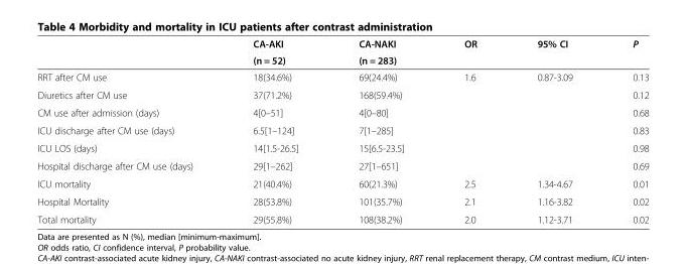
<table><thead><tr><td rowspan="2"></td><td rowspan="2">CA-AKI (n = 52)</td><td rowspan="2">CA-NAKI (n = 283)</td><td rowspan="2">OR</td><td rowspan="2">95% CI</td><td rowspan="2">P</td></tr><tr></tr></thead><tbody><tr><td>RRT after CM use</td><td>18(34.6%)</td><td>69(24.4%)</td><td>1.6</td><td>0.87-3.09</td><td>0.13</td></tr><tr><td>Diuretics after CM use</td><td>37(71.2%)</td><td>168(59.4%)</td><td></td><td></td><td>0.12</td></tr><tr><td>CM use after admission (days)</td><td>4[0–51]</td><td>4[0–80]</td><td></td><td></td><td>0.68</td></tr><tr><td>ICU discharge after CM use (days)</td><td>6.5[1–124]</td><td>7[1–285]</td><td></td><td></td><td>0.83</td></tr><tr><td>ICU LOS (days)</td><td>14[1.5-26.5]</td><td>15[6.5-23.5]</td><td></td><td></td><td>0.98</td></tr><tr><td>Hospital discharge after CM use (days)</td><td>29[1–262]</td><td>27[1–651]</td><td></td><td></td><td>0.69</td></tr><tr><td>ICU mortality</td><td>21(40.4%)</td><td>60(21.3%)</td><td>2.5</td><td>1.34-4.67</td><td>0.01</td></tr><tr><td>Hospital Mortality</td><td>28(53.8%)</td><td>101(35.7%)</td><td>2.1</td><td>1.16-3.82</td><td>0.02</td></tr><tr><td>Total mortality</td><td>29(55.8%)</td><td>108(38.2%)</td><td>2.0</td><td>1.12-3.71</td><td>0.02</td></tr></tbody></table>